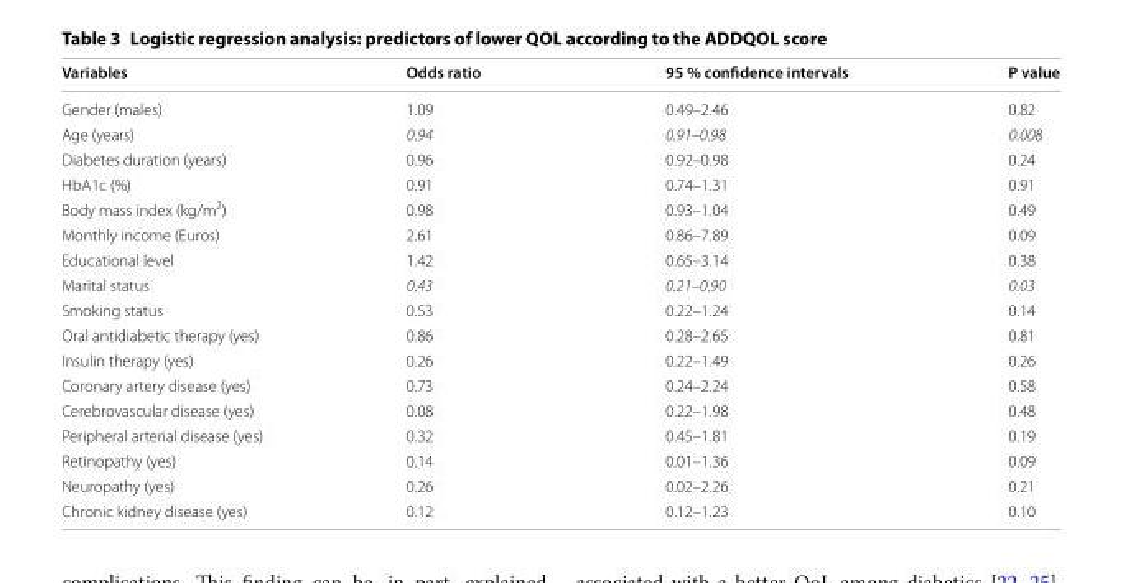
<table><thead><tr><td>Variables</td><td>Odds ratio</td><td>95 % confidence intervals</td><td>P value</td></tr></thead><tbody><tr><td>Gender (males)</td><td>1.09</td><td>0.49–2.46</td><td>0.82</td></tr><tr><td>Age (years)</td><td>0.94</td><td>0.91–0.98</td><td>0.008</td></tr><tr><td>Diabetes duration (years)</td><td>0.96</td><td>0.92–0.98</td><td>0.24</td></tr><tr><td>HbA1c (%)</td><td>0.91</td><td>0.74–1.31</td><td>0.91</td></tr><tr><td>Body mass index (kg/m<sup>2</sup>)</td><td>0.98</td><td>0.93–1.04</td><td>0.49</td></tr><tr><td>Monthly income (Euros)</td><td>2.61</td><td>0.86–7.89</td><td>0.09</td></tr><tr><td>Educational level</td><td>1.42</td><td>0.65–3.14</td><td>0.38</td></tr><tr><td>Marital status</td><td>0.43</td><td>0.21–0.90</td><td>0.03</td></tr><tr><td>Smoking status</td><td>0.53</td><td>0.22–1.24</td><td>0.14</td></tr><tr><td>Oral antidiabetic therapy (yes)</td><td>0.86</td><td>0.28–2.65</td><td>0.81</td></tr><tr><td>Insulin therapy (yes)</td><td>0.26</td><td>0.22–1.49</td><td>0.26</td></tr><tr><td>Coronary artery disease (yes)</td><td>0.73</td><td>0.24–2.24</td><td>0.58</td></tr><tr><td>Cerebrovascular disease (yes)</td><td>0.08</td><td>0.22–1.98</td><td>0.48</td></tr><tr><td>Peripheral arterial disease (yes)</td><td>0.32</td><td>0.45–1.81</td><td>0.19</td></tr><tr><td>Retinopathy (yes)</td><td>0.14</td><td>0.01–1.36</td><td>0.09</td></tr><tr><td>Neuropathy (yes)</td><td>0.26</td><td>0.02–2.26</td><td>0.21</td></tr><tr><td>Chronic kidney disease (yes)</td><td>0.12</td><td>0.12–1.23</td><td>0.10</td></tr></tbody></table>